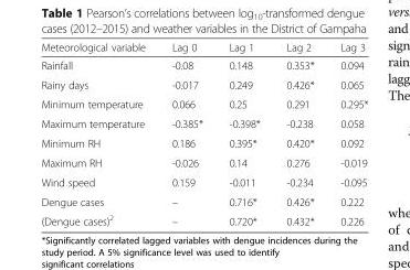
<table><thead><tr><td>Meteorological variable</td><td>Lag 0</td><td>Lag 1</td><td>Lag 2</td><td>Lag 3</td></tr></thead><tbody><tr><td>Rainfall</td><td>-0.08</td><td>0.148</td><td>0.353*</td><td>0.094</td></tr><tr><td>Rainy days</td><td>-0.017</td><td>0.249</td><td>0.426*</td><td>0.065</td></tr><tr><td>Minimum temperature</td><td>0.066</td><td>0.25</td><td>0.291</td><td>0.295*</td></tr><tr><td>Maximum temperature</td><td>-0.385*</td><td>-0.398*</td><td>-0.238</td><td>0.058</td></tr><tr><td>Minimum RH</td><td>0.186</td><td>0.395*</td><td>0.420*</td><td>0.092</td></tr><tr><td>Maximum RH</td><td>-0.026</td><td>0.14</td><td>0.276</td><td>-0.019</td></tr><tr><td>Wind speed</td><td>0.159</td><td>-0.011</td><td>-0.234</td><td>-0.095</td></tr><tr><td>Dengue cases</td><td>–</td><td>0.716*</td><td>0.426*</td><td>0.222</td></tr><tr><td>(Dengue cases)<sup>2</sup></td><td>–</td><td>0.720*</td><td>0.432*</td><td>0.226</td></tr></tbody></table>